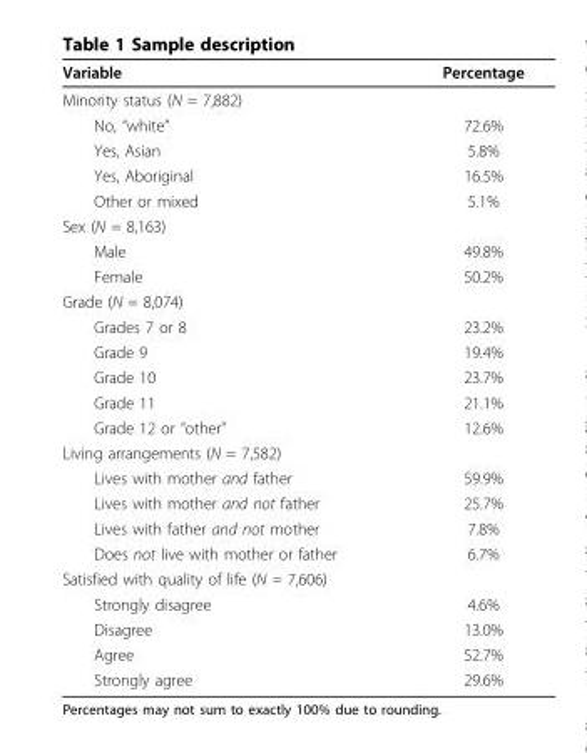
<table><thead><tr><td>Variable</td><td>Percentage</td></tr></thead><tbody><tr><td colspan="2">Minority status (N = 7,882)</td></tr><tr><td>No, “white”</td><td>72.6%</td></tr><tr><td>Yes, Asian</td><td>5.8%</td></tr><tr><td>Yes, Aboriginal</td><td>16.5%</td></tr><tr><td>Other or mixed</td><td>5.1%</td></tr><tr><td colspan="2">Sex (N = 8,163)</td></tr><tr><td>Male</td><td>49.8%</td></tr><tr><td>Female</td><td>50.2%</td></tr><tr><td colspan="2">Grade (N = 8,074)</td></tr><tr><td>Grades 7 or 8</td><td>23.2%</td></tr><tr><td>Grade 9</td><td>19.4%</td></tr><tr><td>Grade 10</td><td>23.7%</td></tr><tr><td>Grade 11</td><td>21.1%</td></tr><tr><td>Grade 12 or “other”</td><td>12.6%</td></tr><tr><td colspan="2">Living arrangements (N = 7,582)</td></tr><tr><td>Lives with mother and father</td><td>59.9%</td></tr><tr><td>Lives with mother and not father</td><td>25.7%</td></tr><tr><td>Lives with father and not mother</td><td>7.8%</td></tr><tr><td>Does not live with mother or father</td><td>6.7%</td></tr><tr><td colspan="2">Satisfied with quality of life (N = 7,606)</td></tr><tr><td>Strongly disagree</td><td>4.6%</td></tr><tr><td>Disagree</td><td>13.0%</td></tr><tr><td>Agree</td><td>52.7%</td></tr><tr><td>Strongly agree</td><td>29.6%</td></tr></tbody></table>